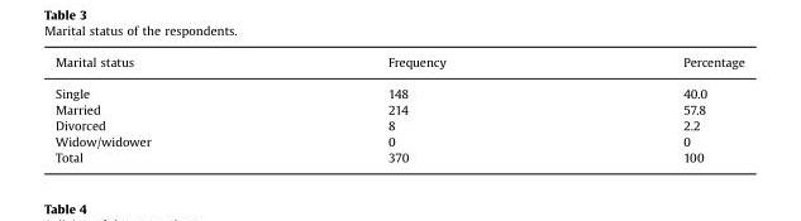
<table><thead><tr><td>Marital status</td><td>Frequency</td><td>Percentage</td></tr></thead><tbody><tr><td>Single</td><td>148</td><td>40.0</td></tr><tr><td>Married</td><td>214</td><td>57.8</td></tr><tr><td>Divorced</td><td>8</td><td>2.2</td></tr><tr><td>Widow/widower</td><td>0</td><td>0</td></tr><tr><td>Total</td><td>370</td><td>100</td></tr></tbody></table>